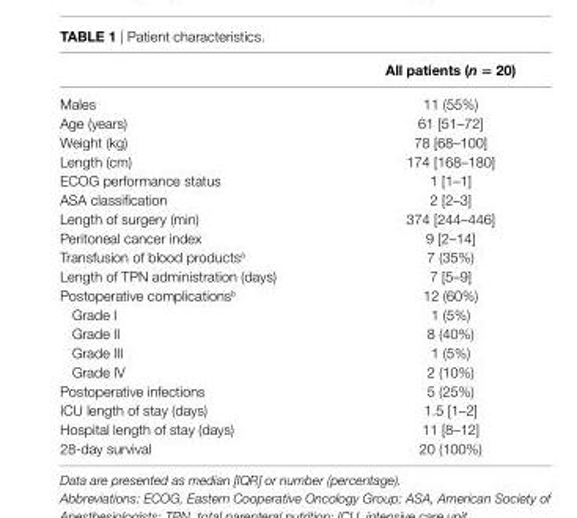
<table><thead><tr><td></td><td>all patients (n = 20)</td></tr></thead><tbody><tr><td>Males</td><td>11 (55%)</td></tr><tr><td>Age (years)</td><td>61 [51–72]</td></tr><tr><td>Weight (kg)</td><td>78 [68–100]</td></tr><tr><td>Length (cm)</td><td>174 [168–180]</td></tr><tr><td>ECOG performance status</td><td>1 [1–1]</td></tr><tr><td>ASA classification</td><td>2 [2–3]</td></tr><tr><td>Length of surgery (min)</td><td>374 [244–446]</td></tr><tr><td>Peritoneal cancer index</td><td>9 [2–14]</td></tr><tr><td>Transfusion of blood products<sup>a</sup></td><td>7 (35%)</td></tr><tr><td>Length of TPN administration (days)</td><td>7 [5–9]</td></tr><tr><td>Postoperative complications<sup>b</sup></td><td>12 (60%)</td></tr><tr><td>Grade I</td><td>1 (5%)</td></tr><tr><td>Grade II</td><td>8 (40%)</td></tr><tr><td>Grade III</td><td>1 (5%)</td></tr><tr><td>Grade IV</td><td>2 (10%)</td></tr><tr><td>Postoperative infections</td><td>5 (25%)</td></tr><tr><td>ICU length of stay (days)</td><td>1.5 [1–2]</td></tr><tr><td>Hospital length of stay (days)</td><td>11 [8–12]</td></tr><tr><td>28-day survival</td><td>20 (100%)</td></tr></tbody></table>